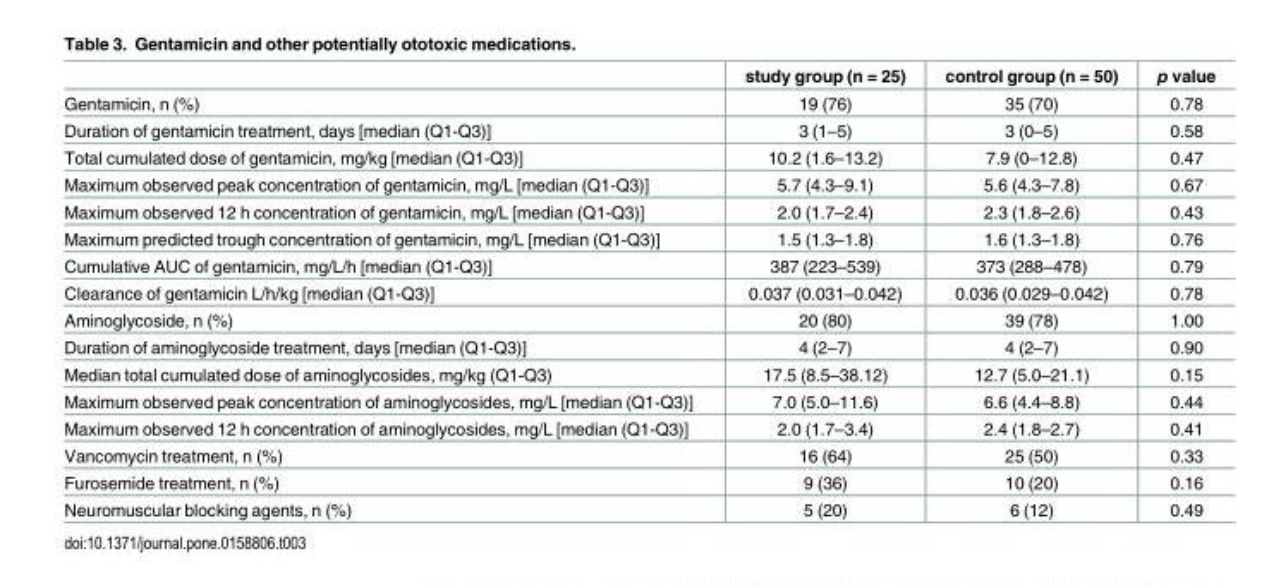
<table><thead><tr><td></td><td>study group (n = 25)</td><td>control group (n = 50)</td><td>p value</td></tr></thead><tbody><tr><td>Gentamicin, n (%)</td><td>19 (76)</td><td>35 (70)</td><td>0.78</td></tr><tr><td>Duration of gentamicin treatment, days [median (Q1-Q3)]</td><td>3 (1–5)</td><td>3 (0–5)</td><td>0.58</td></tr><tr><td>Total cumulated dose of gentamicin, mg/kg [median (Q1-Q3)]</td><td>10.2 (1.6–13.2)</td><td>7.9 (0–12.8)</td><td>0.47</td></tr><tr><td>Maximum observed peak concentration of gentamicin, mg/L [median (Q1-Q3)]</td><td>5.7 (4.3–9.1)</td><td>5.6 (4.3–7.8)</td><td>0.67</td></tr><tr><td>Maximum observed 12 h concentration of gentamicin, mg/L [median (Q1-Q3)]</td><td>2.0 (1.7–2.4)</td><td>2.3 (1.8–2.6)</td><td>0.43</td></tr><tr><td>Maximum predicted trough concentration of gentamicin, mg/L [median (Q1-Q3)]</td><td>1.5 (1.3–1.8)</td><td>1.6 (1.3–1.8)</td><td>0.76</td></tr><tr><td>Cumulative AUC of gentamicin, mg/L/h [median (Q1-Q3)]</td><td>387 (223–539)</td><td>373 (288–478)</td><td>0.79</td></tr><tr><td>Clearance of gentamicin L/h/kg [median (Q1-Q3)]</td><td>0.037 (0.031–0.042)</td><td>0.036 (0.029–0.042)</td><td>0.78</td></tr><tr><td>Aminoglycoside, n (%)</td><td>20 (80)</td><td>39 (78)</td><td>1.00</td></tr><tr><td>Duration of aminoglycoside treatment, days [median (Q1-Q3)]</td><td>4 (2–7)</td><td>4 (2–7)</td><td>0.90</td></tr><tr><td>Median total cumulated dose of aminoglycosides, mg/kg (Q1-Q3)</td><td>17.5 (8.5–38.12)</td><td>12.7 (5.0–21.1)</td><td>0.15</td></tr><tr><td>Maximum observed peak concentration of aminoglycosides, mg/L [median (Q1-Q3)]</td><td>7.0 (5.0–11.6)</td><td>6.6 (4.4–8.8)</td><td>0.44</td></tr><tr><td>Maximum observed 12 h concentration of aminoglycosides, mg/L [median (Q1-Q3)]</td><td>2.0 (1.7–3.4)</td><td>2.4 (1.8–2.7)</td><td>0.41</td></tr><tr><td>Vancomycin treatment, n (%)</td><td>16 (64)</td><td>25 (50)</td><td>0.33</td></tr><tr><td>Furosemide treatment, n (%)</td><td>9 (36)</td><td>10 (20)</td><td>0.16</td></tr><tr><td>Neuromuscular blocking agents, n (%)</td><td>5 (20)</td><td>6 (12)</td><td>0.49</td></tr></tbody></table>